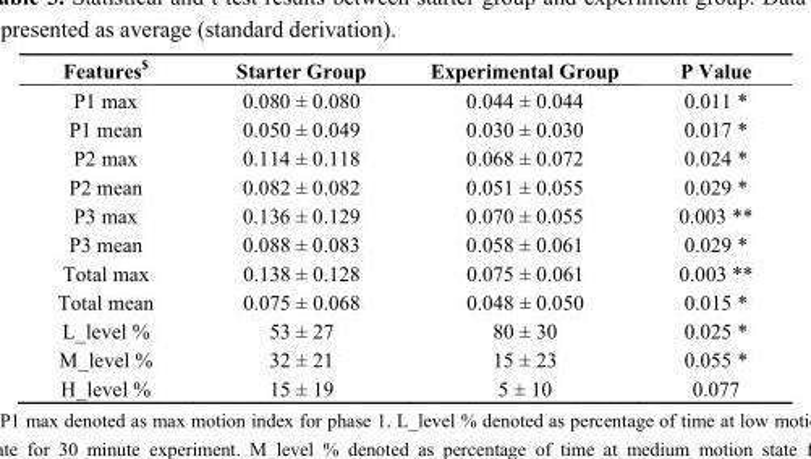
<table><thead><tr><td>Features<sup>$</sup></td><td>Starter Group</td><td>Experimental Group</td><td>P Value</td></tr></thead><tbody><tr><td>P1 max</td><td>0.080 ± 0.080</td><td>0.044 ± 0.044</td><td>0.011 *</td></tr><tr><td>P1 mean</td><td>0.050 ± 0.049</td><td>0.030 ± 0.030</td><td>0.017 *</td></tr><tr><td>P2 max</td><td>0.114 ± 0.118</td><td>0.068 ± 0.072</td><td>0.024 *</td></tr><tr><td>P2 mean</td><td>0.082 ± 0.082</td><td>0.051 ± 0.055</td><td>0.029 *</td></tr><tr><td>P3 max</td><td>0.136 ± 0.129</td><td>0.070 ± 0.055</td><td>0.003 **</td></tr><tr><td>P3 mean</td><td>0.088 ± 0.083</td><td>0.058 ± 0.061</td><td>0.029 *</td></tr><tr><td>Total max</td><td>0.138 ± 0.128</td><td>0.075 ± 0.061</td><td>0.003 **</td></tr><tr><td>Total mean</td><td>0.075 ± 0.068</td><td>0.048 ± 0.050</td><td>0.015 *</td></tr><tr><td>L_level %</td><td>53 ± 27</td><td>80 ± 30</td><td>0.025 *</td></tr><tr><td>M_level %</td><td>32 ± 21</td><td>15 ± 23</td><td>0.055 *</td></tr><tr><td>H_level %</td><td>15 ± 19</td><td>5 ± 10</td><td>0.077</td></tr></tbody></table>